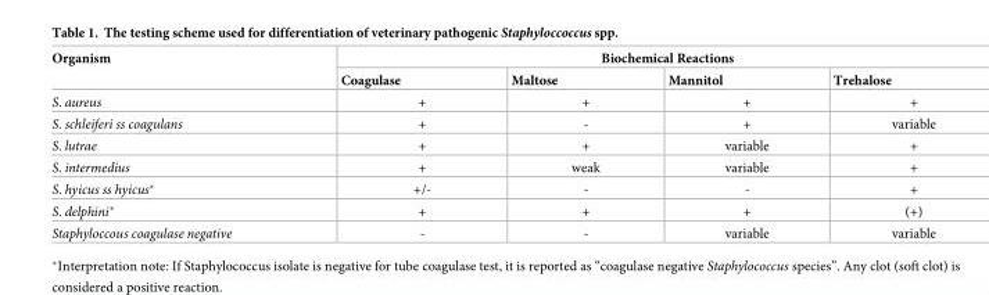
<table><thead><tr><td rowspan="2">Organism</td><td colspan="4">Biochemical Reactions</td></tr><tr><td>Coagulase</td><td>Maltose</td><td>Mannitol</td><td>Trehalose</td></tr></thead><tbody><tr><td>S. aureus</td><td>+</td><td>+</td><td>+</td><td>+</td></tr><tr><td>S. schleiferi ss coagulans</td><td>+</td><td>-</td><td>+</td><td>variable</td></tr><tr><td>S. lutrae</td><td>+</td><td>+</td><td>variable</td><td>+</td></tr><tr><td>S. intermedius</td><td>+</td><td>weak</td><td>variable</td><td>+</td></tr><tr><td>S. hyicus ss hyicus*</td><td>+/-</td><td>-</td><td>-</td><td>+</td></tr><tr><td>S. delphini*</td><td>+</td><td>+</td><td>+</td><td>(+)</td></tr><tr><td>Staphyloccous coagulase negative</td><td>-</td><td>-</td><td>variable</td><td>variable</td></tr></tbody></table>